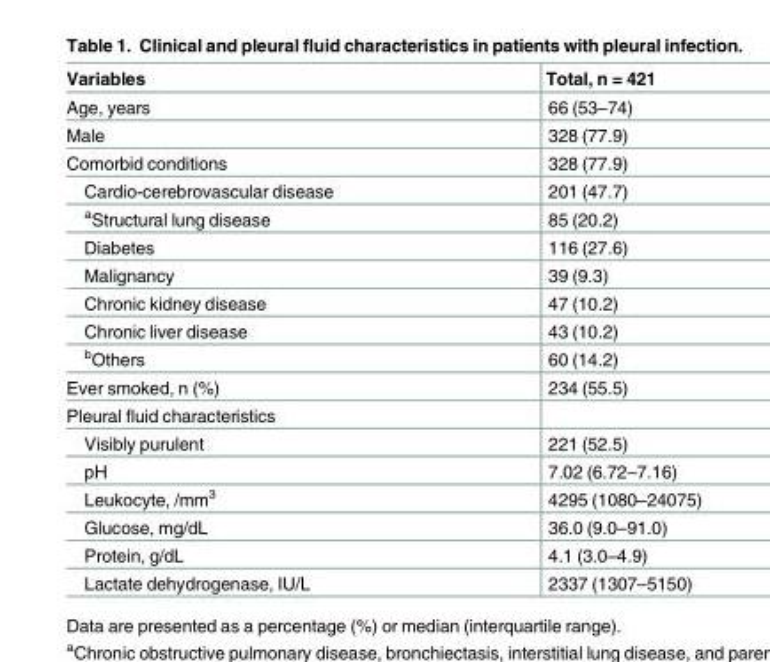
<table><thead><tr><td>Variables</td><td>Total, n = 421</td></tr></thead><tbody><tr><td>Age, years</td><td>66 (53–74)</td></tr><tr><td>Male</td><td>328 (77.9)</td></tr><tr><td>Comorbid conditions</td><td>328 (77.9)</td></tr><tr><td>Cardio-cerebrovascular disease</td><td>201 (47.7)</td></tr><tr><td><sup>a</sup>Structural lung disease</td><td>85 (20.2)</td></tr><tr><td>Diabetes</td><td>116 (27.6)</td></tr><tr><td>Malignancy</td><td>39 (9.3)</td></tr><tr><td>Chronic kidney disease</td><td>47 (10.2)</td></tr><tr><td>Chronic liver disease</td><td>43 (10.2)</td></tr><tr><td><sup>b</sup>Others</td><td>60 (14.2)</td></tr><tr><td>Ever smoked, n (%)</td><td>234 (55.5)</td></tr><tr><td colspan="2">Pleural fluid characteristics</td></tr><tr><td>Visibly purulent</td><td>221 (52.5)</td></tr><tr><td>pH</td><td>7.02 (6.72–7.16)</td></tr><tr><td>Leukocyte, /mm<sup>3</sup></td><td>4295 (1080–24075)</td></tr><tr><td>Glucose, mg/dL</td><td>36.0 (9.0–91.0)</td></tr><tr><td>Protein, g/dL</td><td>4.1 (3.0–4.9)</td></tr><tr><td>Lactate dehydrogenase, IU/L</td><td>2337 (1307–5150)</td></tr></tbody></table>